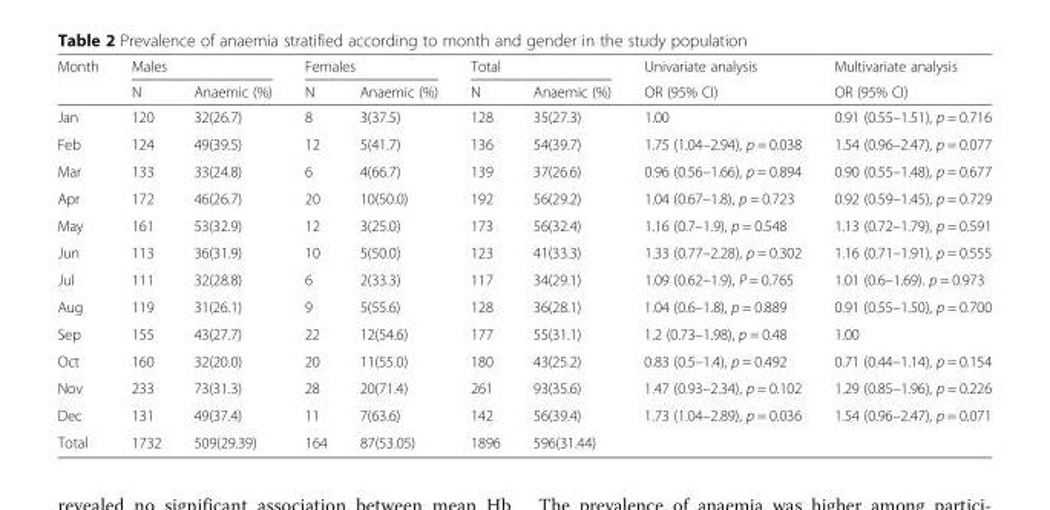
<table><thead><tr><td rowspan="2">Month</td><td colspan="2">Males</td><td colspan="2">Females</td><td colspan="2">Total</td><td rowspan="2">Univariate analysis OR (95% CI)</td><td rowspan="2">Multivariate analysis OR (95% CI)</td></tr><tr><td>N</td><td>Anaemic (%)</td><td>N</td><td>Anaemic (%)</td><td>N</td><td>Anaemic (%)</td></tr></thead><tbody><tr><td>Jan</td><td>120</td><td>32(26.7)</td><td>8</td><td>3(37.5)</td><td>128</td><td>35(27.3)</td><td>1.00</td><td>0.91 (0.55–1.51), p = 0.716</td></tr><tr><td>Feb</td><td>124</td><td>49(39.5)</td><td>12</td><td>5(41.7)</td><td>136</td><td>54(39.7)</td><td>1.75 (1.04–2.94), p = 0.038</td><td>1.54 (0.96–2.47), p = 0.077</td></tr><tr><td>Mar</td><td>133</td><td>33(24.8)</td><td>6</td><td>4(66.7)</td><td>139</td><td>37(26.6)</td><td>0.96 (0.56–1.66), p = 0.894</td><td>0.90 (0.55–1.48), p = 0.677</td></tr><tr><td>Apr</td><td>172</td><td>46(26.7)</td><td>20</td><td>10(50.0)</td><td>192</td><td>56(29.2)</td><td>1.04 (0.67–1.8), p = 0.723</td><td>0.92 (0.59–1.45), p = 0.729</td></tr><tr><td>May</td><td>161</td><td>53(32.9)</td><td>12</td><td>3(25.0)</td><td>173</td><td>56(32.4)</td><td>1.16 (0.7–1.9), p = 0.548</td><td>1.13 (0.72–1.79), p = 0.591</td></tr><tr><td>Jun</td><td>113</td><td>36(31.9)</td><td>10</td><td>5(50.0)</td><td>123</td><td>41(33.3)</td><td>1.33 (0.77–2.28), p = 0.302</td><td>1.16 (0.71–1.91), p = 0.555</td></tr><tr><td>Jul</td><td>111</td><td>32(28.8)</td><td>6</td><td>2(33.3)</td><td>117</td><td>34(29.1)</td><td>1.09 (0.62–1.9), P = 0.765</td><td>1.01 (0.6–1.69). p = 0.973</td></tr><tr><td>Aug</td><td>119</td><td>31(26.1)</td><td>9</td><td>5(55.6)</td><td>128</td><td>36(28.1)</td><td>1.04 (0.6–1.8), p = 0.889</td><td>0.91 (0.55–1.50), p = 0.700</td></tr><tr><td>Sep</td><td>155</td><td>43(27.7)</td><td>22</td><td>12(54.6)</td><td>177</td><td>55(31.1)</td><td>1.2 (0.73–1.98), p = 0.48</td><td>1.00</td></tr><tr><td>Oct</td><td>160</td><td>32(20.0)</td><td>20</td><td>11(55.0)</td><td>180</td><td>43(25.2)</td><td>0.83 (0.5–1.4), p = 0.492</td><td>0.71 (0.44–1.14), p = 0.154</td></tr><tr><td>Nov</td><td>233</td><td>73(31.3)</td><td>28</td><td>20(71.4)</td><td>261</td><td>93(35.6)</td><td>1.47 (0.93–2.34), p = 0.102</td><td>1.29 (0.85–1.96), p = 0.226</td></tr><tr><td>Dec</td><td>131</td><td>49(37.4)</td><td>11</td><td>7(63.6)</td><td>142</td><td>56(39.4)</td><td>1.73 (1.04–2.89), p = 0.036</td><td>1.54 (0.96–2.47), p = 0.071</td></tr><tr><td>Total</td><td>1732</td><td>509(29.39)</td><td>164</td><td>87(53.05)</td><td>1896</td><td>596(31.44)</td><td></td><td></td></tr></tbody></table>